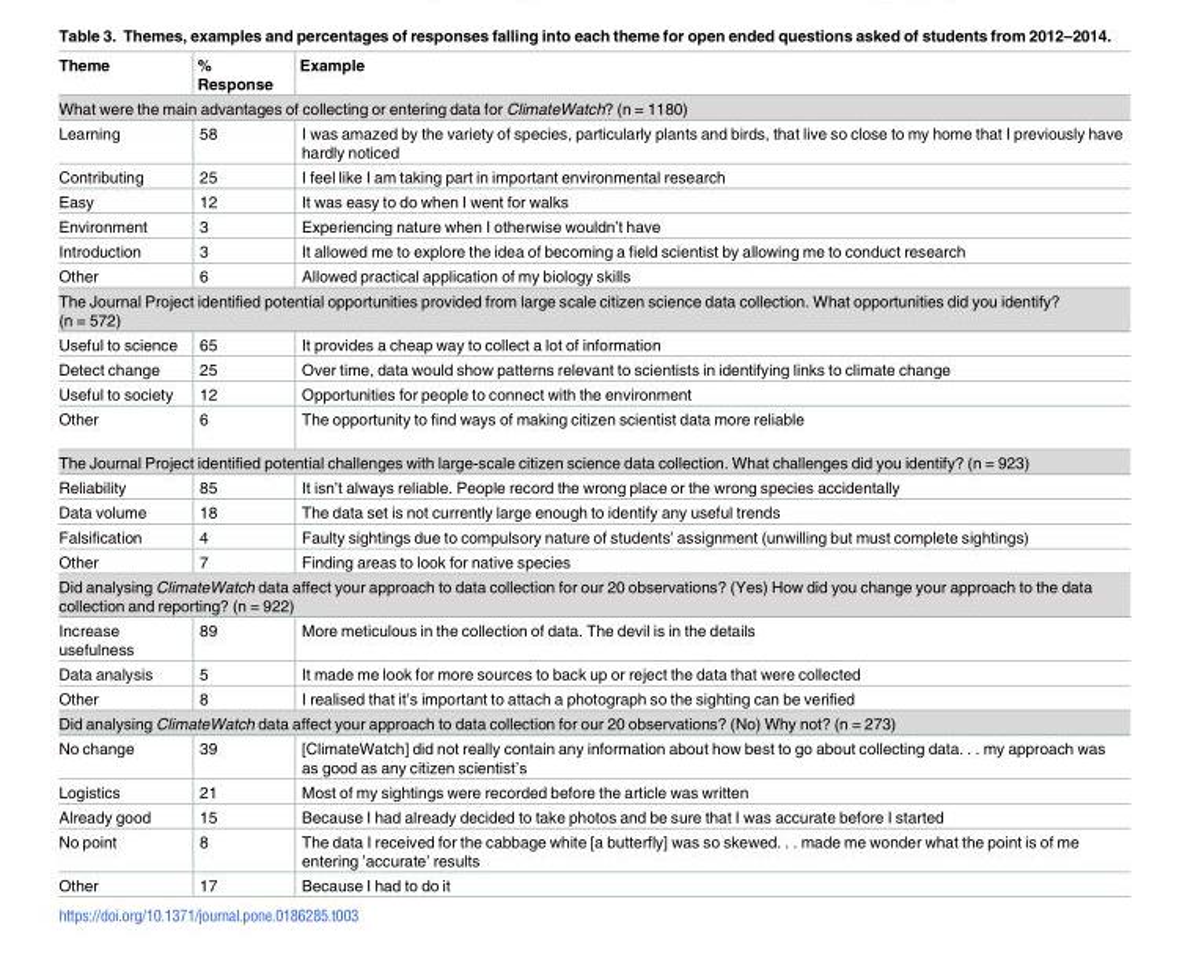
<table><thead><tr><td>Theme</td><td>% Response</td><td>Example</td></tr></thead><tbody><tr><td colspan="3">What were the main advantages of collecting or entering data for ClimateWatch? (n = 1180)</td></tr><tr><td>Learning</td><td>58</td><td>I was amazed by the variety of species, particularly plants and birds, that live so close to my home that I previously have hardly noticed</td></tr><tr><td>Contributing</td><td>25</td><td>I feel like I am taking part in important environmental research</td></tr><tr><td>Easy</td><td>12</td><td>It was easy to do when I went for walks</td></tr><tr><td>Environment</td><td>3</td><td>Experiencing nature when I otherwise wouldn’t have</td></tr><tr><td>Introduction</td><td>3</td><td>It allowed me to explore the idea of becoming a field scientist by allowing me to conduct research</td></tr><tr><td>Other</td><td>6</td><td>Allowed practical application of my biology skills</td></tr><tr><td colspan="3">The Journal Project identified potential opportunities provided from large scale citizen science data collection. What opportunities did you identify? (n = 572)</td></tr><tr><td>Useful to science</td><td>65</td><td>It provides a cheap way to collect a lot of information</td></tr><tr><td>Detect change</td><td>25</td><td>Over time, data would show patterns relevant to scientists in identifying links to climate change</td></tr><tr><td>Useful to society</td><td>12</td><td>Opportunities for people to connect with the environment</td></tr><tr><td>Other</td><td>6</td><td>The opportunity to find ways of making citizen scientist data more reliable</td></tr><tr><td colspan="3">The Journal Project identified potential challenges with large-scale citizen science data collection. What challenges did you identify? (n = 923)</td></tr><tr><td>Reliability</td><td>85</td><td>It isn’t always reliable. People record the wrong place or the wrong species accidentally</td></tr><tr><td>Data volume</td><td>18</td><td>The data set is not currently large enough to identify any useful trends</td></tr><tr><td>Falsification</td><td>4</td><td>Faulty sightings due to compulsory nature of students’ assignment (unwilling but must complete sightings)</td></tr><tr><td>Other</td><td>7</td><td>Finding areas to look for native species</td></tr><tr><td colspan="3">Did analysing ClimateWatch data affect your approach to data collection for our 20 observations? (Yes) How did you change your approach to the data collection and reporting? (n = 922)</td></tr><tr><td>Increase usefulness</td><td>89</td><td>More meticulous in the collection of data. The devil is in the details</td></tr><tr><td>Data analysis</td><td>5</td><td>It made me look for more sources to back up or reject the data that were collected</td></tr><tr><td>Other</td><td>8</td><td>I realised that it’s important to attach a photograph so the sighting can be verified</td></tr><tr><td colspan="3">Did analysing ClimateWatch data affect your approach to data collection for our 20 observations? (No) Why not? (n = 273)</td></tr><tr><td>No change</td><td>39</td><td>[ClimateWatch] did not really contain any information about how best to go about collecting data. . . my approach was as good as any citizen scientist’s</td></tr><tr><td>Logistics</td><td>21</td><td>Most of my sightings were recorded before the article was written</td></tr><tr><td>Already good</td><td>15</td><td>Because I had already decided to take photos and be sure that I was accurate before I started</td></tr><tr><td>No point</td><td>8</td><td>The data I received for the cabbage white [a butterfly] was so skewed. . . made me wonder what the point is of me entering ’accurate’ results</td></tr><tr><td>Other</td><td>17</td><td>Because I had to do it</td></tr></tbody></table>